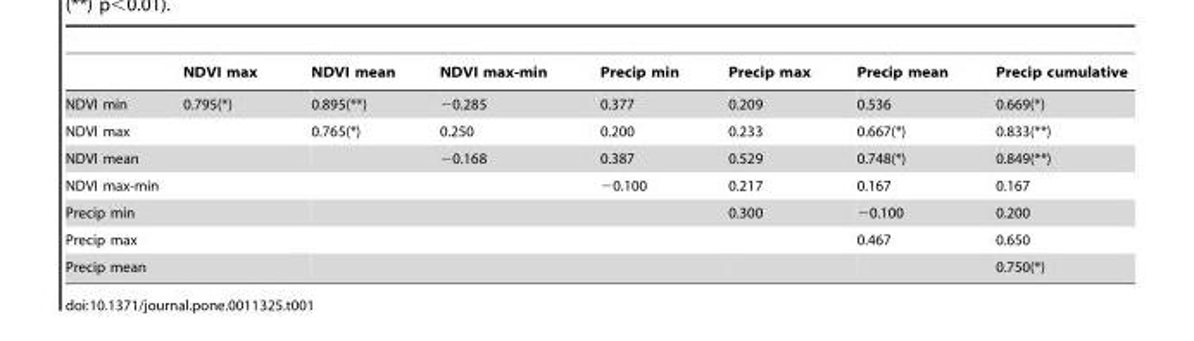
<table><thead><tr><td></td><td>NDVI max</td><td>NDVI mean</td><td>NDVI max-min</td><td>Precip min</td><td>Precip max</td><td>Precip mean</td><td>Precip cumulative</td></tr></thead><tbody><tr><td>NDVI min</td><td>0.795(*)</td><td>0.895(**)</td><td>−0.285</td><td>0.377</td><td>0.209</td><td>0.536</td><td>0.669(*)</td></tr><tr><td>NDVI max</td><td></td><td>0.765(*)</td><td>0.250</td><td>0.200</td><td>0.233</td><td>0.667(*)</td><td>0.833(**)</td></tr><tr><td>NDVI mean</td><td></td><td></td><td>−0.168</td><td>0.387</td><td>0.529</td><td>0.748(*)</td><td>0.849(**)</td></tr><tr><td>NDVI max-min</td><td></td><td></td><td></td><td>−0.100</td><td>0.217</td><td>0.167</td><td>0.167</td></tr><tr><td>Precip min</td><td></td><td></td><td></td><td></td><td>0.300</td><td>−0.100</td><td>0.200</td></tr><tr><td>Precip max</td><td></td><td></td><td></td><td></td><td></td><td>0.467</td><td>0.650</td></tr><tr><td>Precip mean</td><td></td><td></td><td></td><td></td><td></td><td></td><td>0.750(*)</td></tr></tbody></table>